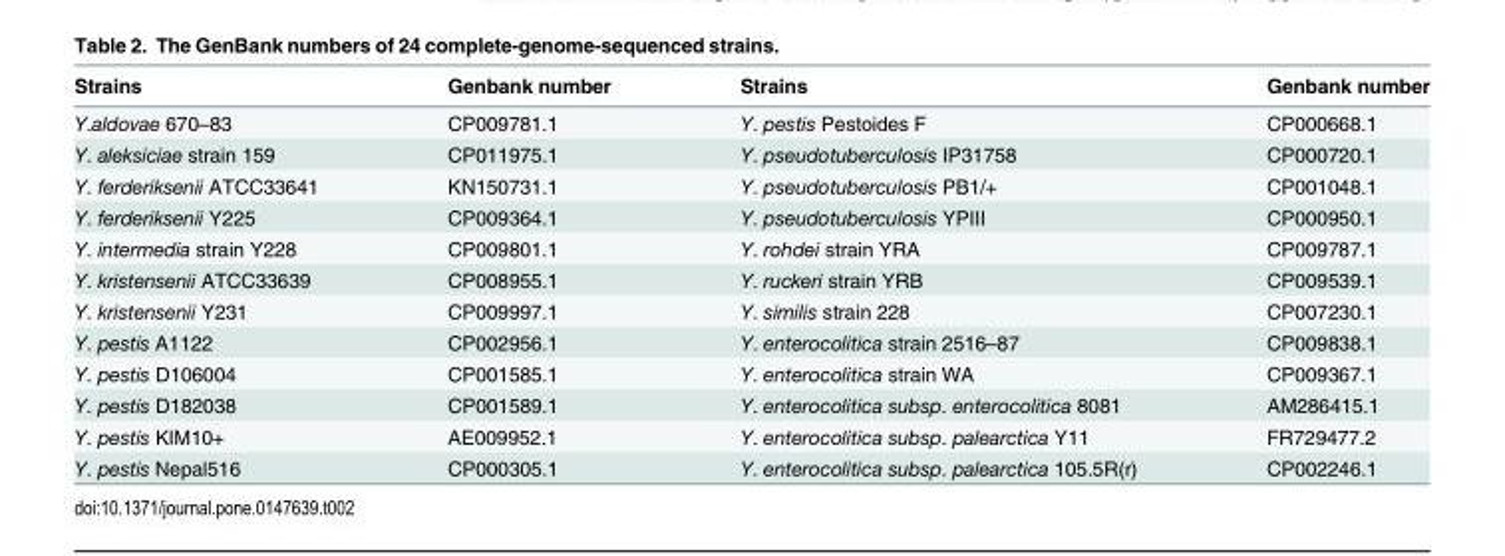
<table><thead><tr><td>Strains</td><td>Genbank number</td><td>Strains</td><td>Genbank number</td></tr></thead><tbody><tr><td>Y.aldovae 670–83</td><td>CP009781.1</td><td>Y. pestis Pestoides F</td><td>CP000668.1</td></tr><tr><td>Y. aleksiciae strain 159</td><td>CP011975.1</td><td>Y. pseudotuberculosis IP31758</td><td>CP000720.1</td></tr><tr><td>Y. ferderiksenii ATCC33641</td><td>KN150731.1</td><td>Y. pseudotuberculosis PB1/+</td><td>CP001048.1</td></tr><tr><td>Y. ferderiksenii Y225</td><td>CP009364.1</td><td>Y. pseudotuberculosis YPIII</td><td>CP000950.1</td></tr><tr><td>Y. intermedia strain Y228</td><td>CP009801.1</td><td>Y. rohdei strain YRA</td><td>CP009787.1</td></tr><tr><td>Y. kristensenii ATCC33639</td><td>CP008955.1</td><td>Y. ruckeri strain YRB</td><td>CP009539.1</td></tr><tr><td>Y. kristensenii Y231</td><td>CP009997.1</td><td>Y. similis strain 228</td><td>CP007230.1</td></tr><tr><td>Y. pestis A1122</td><td>CP002956.1</td><td>Y. enterocolitica strain 2516–87</td><td>CP009838.1</td></tr><tr><td>Y. pestis D106004</td><td>CP001585.1</td><td>Y. enterocolitica strain WA</td><td>CP009367.1</td></tr><tr><td>Y. pestis D182038</td><td>CP001589.1</td><td>Y. enterocolitica subsp. enterocolitica 8081</td><td>AM286415.1</td></tr><tr><td>Y. pestis KIM10+</td><td>AE009952.1</td><td>Y. enterocolitica subsp. palearctica Y11</td><td>FR729477.2</td></tr><tr><td>Y. pestis Nepal516</td><td>CP000305.1</td><td>Y. enterocolitica subsp. palearctica 105.5R(r)</td><td>CP002246.1</td></tr></tbody></table>